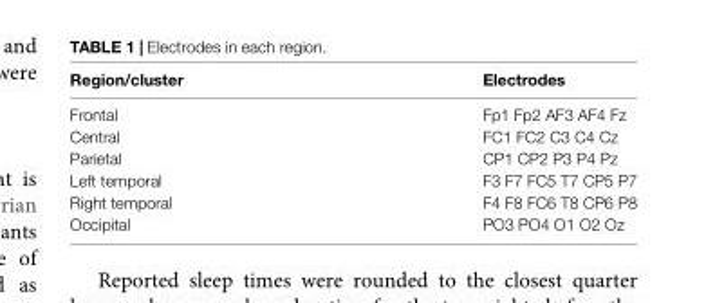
<table><thead><tr><td>Region/cluster</td><td>Electrodes</td></tr></thead><tbody><tr><td>Frontal</td><td>Fp1 Fp2 AF3 AF4 Fz</td></tr><tr><td>Central</td><td>FC1 FC2 C3 C4 Cz</td></tr><tr><td>Parietal</td><td>CP1 CP2 P3 P4 Pz</td></tr><tr><td>Left temporal</td><td>F3 F7 FC5 T7 CP5 P7</td></tr><tr><td>Right temporal</td><td>F4 F8 FC6 T8 CP6 P8</td></tr><tr><td>Occipital</td><td>PO3 PO4 O1 O2 Oz</td></tr></tbody></table>